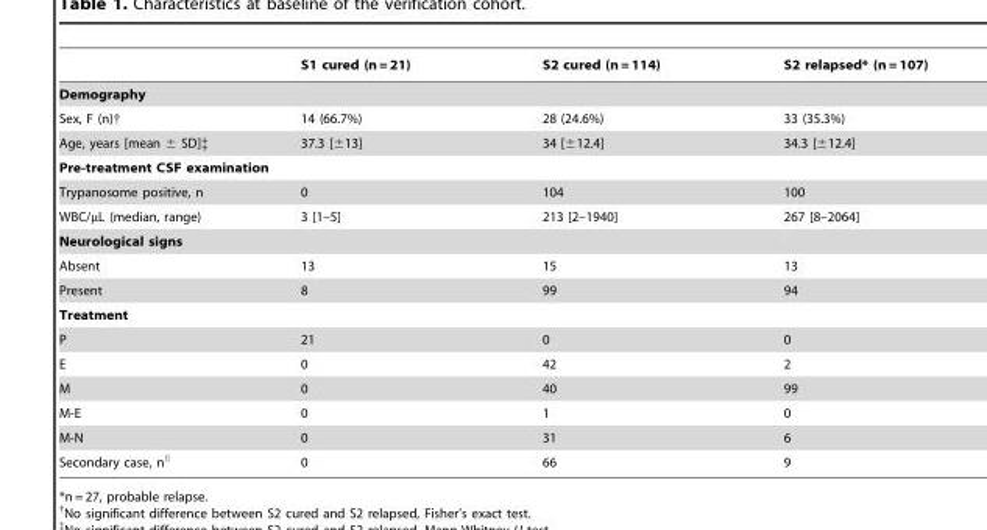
<table><thead><tr><td></td><td>S1 cured (n = 21)</td><td>S2 cured (n = 114)</td><td>S2 relapsed* (n = 107)</td></tr></thead><tbody><tr><td colspan="4">Demography</td></tr><tr><td>Sex, F (n)†</td><td>14 (66.7%)</td><td>28 (24.6%)</td><td>33 (35.3%)</td></tr><tr><td>Age, years [mean ± SD]‡</td><td>37.3 [±13]</td><td>34 [±12.4]</td><td>34.3 [±12.4]</td></tr><tr><td colspan="4">Pre-treatment CSF examination</td></tr><tr><td>Trypanosome positive, n</td><td>0</td><td>104</td><td>100</td></tr><tr><td>WBC/µL (median, range)</td><td>3 [1–5]</td><td>213 [2–1940]</td><td>267 [8–2064]</td></tr><tr><td colspan="4">Neurological signs</td></tr><tr><td>Absent</td><td>13</td><td>15</td><td>13</td></tr><tr><td>Present</td><td>8</td><td>99</td><td>94</td></tr><tr><td colspan="4">Treatment</td></tr><tr><td>P</td><td>21</td><td>0</td><td>0</td></tr><tr><td>E</td><td>0</td><td>42</td><td>2</td></tr><tr><td>M</td><td>0</td><td>40</td><td>99</td></tr><tr><td>M-E</td><td>0</td><td>1</td><td>0</td></tr><tr><td>M-N</td><td>0</td><td>31</td><td>6</td></tr><tr><td>Secondary case, n∥</td><td>0</td><td>66</td><td>9</td></tr></tbody></table>